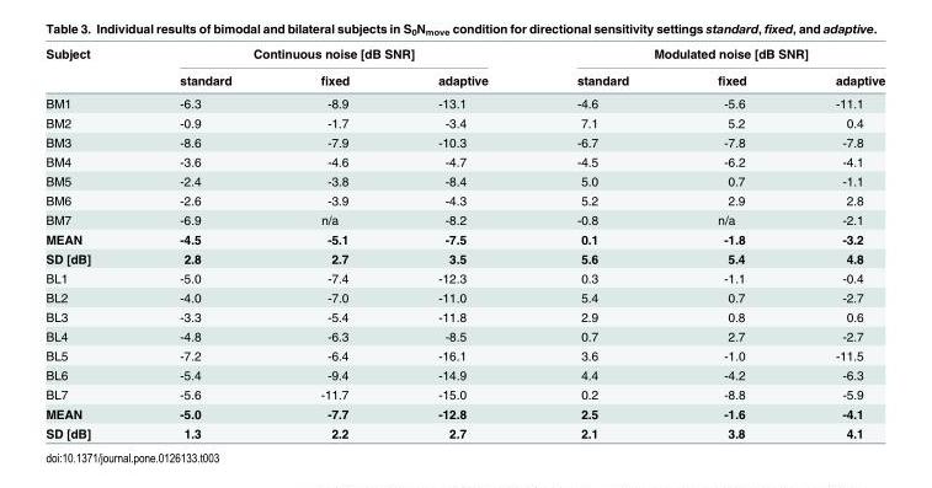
<table><thead><tr><td rowspan="2">Subject</td><td colspan="3">Continuous noise [dB SNR]</td><td colspan="3">Modulated noise [dB SNR]</td></tr><tr><td>standard</td><td>fixed</td><td>adaptive</td><td>standard</td><td>fixed</td><td>adaptive</td></tr></thead><tbody><tr><td>BM1</td><td>-6.3</td><td>-8.9</td><td>-13.1</td><td>-4.6</td><td>-5.6</td><td>-11.1</td></tr><tr><td>BM2</td><td>-0.9</td><td>-1.7</td><td>-3.4</td><td>7.1</td><td>5.2</td><td>0.4</td></tr><tr><td>BM3</td><td>-8.6</td><td>-7.9</td><td>-10.3</td><td>-6.7</td><td>-7.8</td><td>-7.8</td></tr><tr><td>BM4</td><td>-3.6</td><td>-4.6</td><td>-4.7</td><td>-4.5</td><td>-6.2</td><td>-4.1</td></tr><tr><td>BM5</td><td>-2.4</td><td>-3.8</td><td>-8.4</td><td>5.0</td><td>0.7</td><td>-1.1</td></tr><tr><td>BM6</td><td>-2.6</td><td>-3.9</td><td>-4.3</td><td>5.2</td><td>2.9</td><td>2.8</td></tr><tr><td>BM7</td><td>-6.9</td><td>n/a</td><td>-8.2</td><td>-0.8</td><td>n/a</td><td>-2.1</td></tr><tr><td>MEAN</td><td>-4.5</td><td>-5.1</td><td>-7.5</td><td>0.1</td><td>-1.8</td><td>-3.2</td></tr><tr><td>SD [dB]</td><td>2.8</td><td>2.7</td><td>3.5</td><td>5.6</td><td>5.4</td><td>4.8</td></tr><tr><td>BL1</td><td>-5.0</td><td>-7.4</td><td>-12.3</td><td>0.3</td><td>-1.1</td><td>-0.4</td></tr><tr><td>BL2</td><td>-4.0</td><td>-7.0</td><td>-11.0</td><td>5.4</td><td>0.7</td><td>-2.7</td></tr><tr><td>BL3</td><td>-3.3</td><td>-5.4</td><td>-11.8</td><td>2.9</td><td>0.8</td><td>0.6</td></tr><tr><td>BL4</td><td>-4.8</td><td>-6.3</td><td>-8.5</td><td>0.7</td><td>2.7</td><td>-2.7</td></tr><tr><td>BL5</td><td>-7.2</td><td>-6.4</td><td>-16.1</td><td>3.6</td><td>-1.0</td><td>-11.5</td></tr><tr><td>BL6</td><td>-5.4</td><td>-9.4</td><td>-14.9</td><td>4.4</td><td>-4.2</td><td>-6.3</td></tr><tr><td>BL7</td><td>-5.6</td><td>-11.7</td><td>-15.0</td><td>0.2</td><td>-8.8</td><td>-5.9</td></tr><tr><td>MEAN</td><td>-5.0</td><td>-7.7</td><td>-12.8</td><td>2.5</td><td>-1.6</td><td>-4.1</td></tr><tr><td>SD [dB]</td><td>1.3</td><td>2.2</td><td>2.7</td><td>2.1</td><td>3.8</td><td>4.1</td></tr></tbody></table>